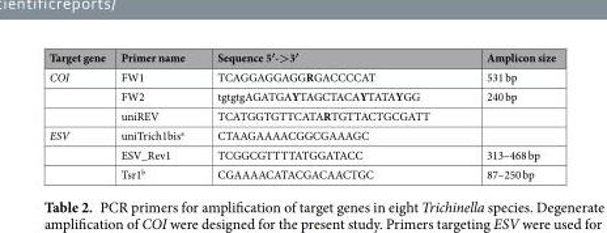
<table><thead><tr><td>Target gene</td><td>Primer name</td><td>Sequence 5′-&gt;3′</td><td>Amplicon size</td></tr></thead><tbody><tr><td rowspan="3">COI</td><td>FW1</td><td>TCAGGAGGAGGRGACCCCAT</td><td>531 bp</td></tr><tr><td>FW2</td><td>tgtgtgAGATGAYTAGCTACAYTATAYGG</td><td>240 bp</td></tr><tr><td>uniREV</td><td>TCATGGTGTTCATARTGTTACTGCGATT</td><td></td></tr><tr><td rowspan="3">ESV</td><td>uniTrich1bis<sup>a</sup></td><td>CTAAGAAAACGGCGAAAGC</td><td></td></tr><tr><td>ESV_Rev1</td><td>TCGGCGTTTTATGGATACC</td><td>313–468 bp</td></tr><tr><td>Tsr1<sup>b</sup></td><td>CGAAAACATACGACAACTGC</td><td>87–250 bp</td></tr></tbody></table>